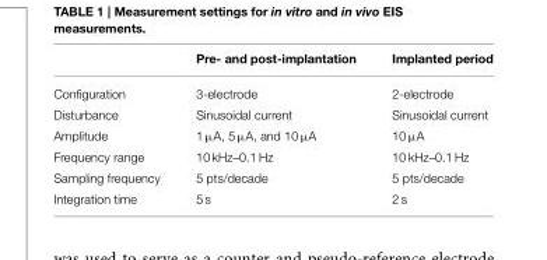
<table><thead><tr><td></td><td>Pre- and post-implantation</td><td>Implanted period</td></tr></thead><tbody><tr><td>Configuration</td><td>3-electrode</td><td>2-electrode</td></tr><tr><td>Disturbance</td><td>Sinusoidal current</td><td>Sinusoidal current</td></tr><tr><td>Amplitude</td><td>1 µA, 5 µA, and 10 µA</td><td>10 µA</td></tr><tr><td>Frequency range</td><td>10 kHz–0.1 Hz</td><td>10 kHz–0.1 Hz</td></tr><tr><td>Sampling frequency</td><td>5 pts/decade</td><td>5 pts/decade</td></tr><tr><td>Integration time</td><td>5 s</td><td>2 s</td></tr></tbody></table>